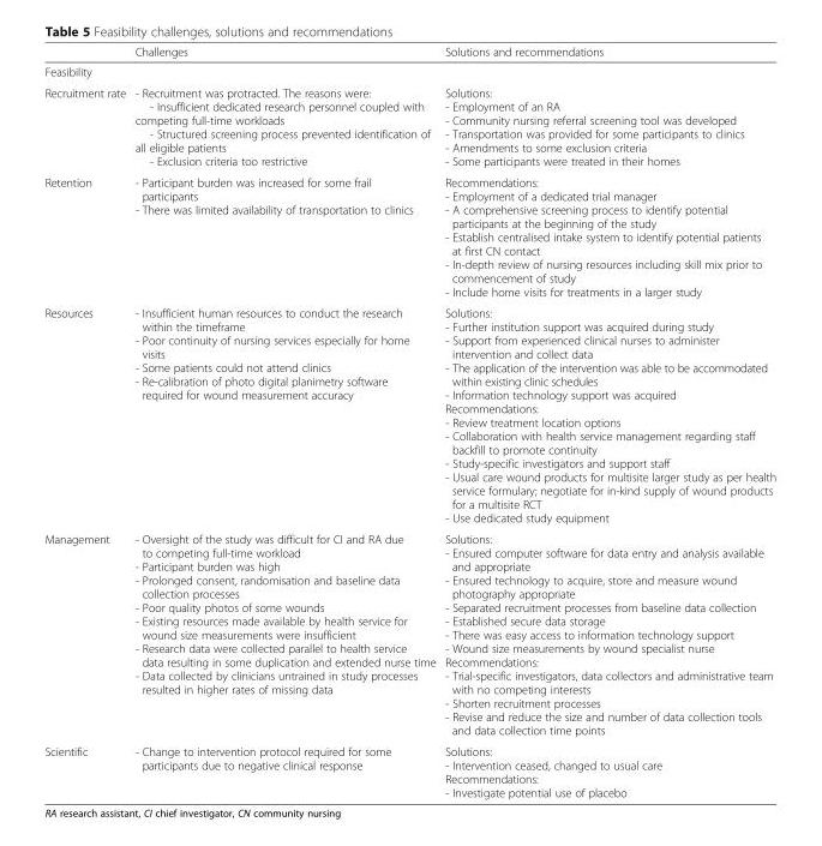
<table><thead><tr><td></td><td>Challenges</td><td>Solutions and recommendations</td></tr></thead><tbody><tr><td colspan="3">Feasibility</td></tr><tr><td>Recruitment rate</td><td>- Recruitment was protracted. The reasons were: - Insufficient dedicated research personnel coupled with competing full-time workloads - Structured screening process prevented identification of all eligible patients - Exclusion criteria too restrictive</td><td>Solutions: - Employment of an RA - Community nursing referral screening tool was developed - Transportation was provided for some participants to clinics - Amendments to some exclusion criteria - Some participants were treated in their homes</td></tr><tr><td>Retention</td><td>- Participant burden was increased for some frail participants - There was limited availability of transportation to clinics</td><td>Recommendations: - Employment of a dedicated trial manager - A comprehensive screening process to identify potential participants at the beginning of the study - Establish centralised intake system to identify potential patients at first CN contact - In-depth review of nursing resources including skill mix prior to commencement of study - Include home visits for treatments in a larger study</td></tr><tr><td>Resources</td><td>- Insufficient human resources to conduct the research within the timeframe - Poor continuity of nursing services especially for home visits - Some patients could not attend clinics - Re-calibration of photo digital planimetry software required for wound measurement accuracy</td><td>Solutions: - Further institution support was acquired during study - Support from experienced clinical nurses to administer intervention and collect data - The application of the intervention was able to be accommodated within existing clinic schedules - Information technology support was acquired Recommendations: - Review treatment location options - Collaboration with health service management regarding staff backfill to promote continuity - Study-specific investigators and support staff - Usual care wound products for multisite larger study as per health service formulary; negotiate for in-kind supply of wound products for a multisite RCT - Use dedicated study equipment</td></tr><tr><td>Management</td><td>- Oversight of the study was difficult for CI and RA due to competing full-time workload - Participant burden was high - Prolonged consent, randomisation and baseline data collection processes - Poor quality photos of some wounds - Existing resources made available by health service for wound size measurements were insufficient - Research data were collected parallel to health service data resulting in some duplication and extended nurse time - Data collected by clinicians untrained in study processes resulted in higher rates of missing data</td><td>Solutions: - Ensured computer software for data entry and analysis available and appropriate - Ensured technology to acquire, store and measure wound photography appropriate - Separated recruitment processes from baseline data collection - Established secure data storage - There was easy access to information technology support - Wound size measurements by wound specialist nurse Recommendations: - Trial-specific investigators, data collectors and administrative team with no competing interests - Shorten recruitment processes - Revise and reduce the size and number of data collection tools and data collection time points</td></tr><tr><td>Scientific</td><td>- Change to intervention protocol required for some participants due to negative clinical response</td><td>Solutions: - Intervention ceased, changed to usual care Recommendations: - Investigate potential use of placebo</td></tr></tbody></table>